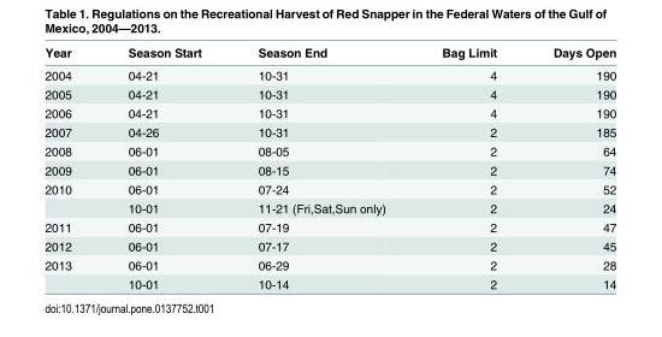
<table><thead><tr><td>Year</td><td>Season Start</td><td>Season End</td><td>Bag Limit</td><td>Days Open</td></tr></thead><tbody><tr><td>2004</td><td>04-21</td><td>10-31</td><td>4</td><td>190</td></tr><tr><td>2005</td><td>04-21</td><td>10-31</td><td>4</td><td>190</td></tr><tr><td>2006</td><td>04-21</td><td>10-31</td><td>4</td><td>190</td></tr><tr><td>2007</td><td>04-26</td><td>10-31</td><td>2</td><td>185</td></tr><tr><td>2008</td><td>06-01</td><td>08-05</td><td>2</td><td>64</td></tr><tr><td>2009</td><td>06-01</td><td>08-15</td><td>2</td><td>74</td></tr><tr><td rowspan="2">2010</td><td>06-01</td><td>07-24</td><td>2</td><td>52</td></tr><tr><td>10-01</td><td>11-21 (Fri,Sat,Sun only)</td><td>2</td><td>24</td></tr><tr><td>2011</td><td>06-01</td><td>07-19</td><td>2</td><td>47</td></tr><tr><td>2012</td><td>06-01</td><td>07-17</td><td>2</td><td>45</td></tr><tr><td rowspan="2">2013</td><td>06-01</td><td>06-29</td><td>2</td><td>28</td></tr><tr><td>10-01</td><td>10-14</td><td>2</td><td>14</td></tr></tbody></table>